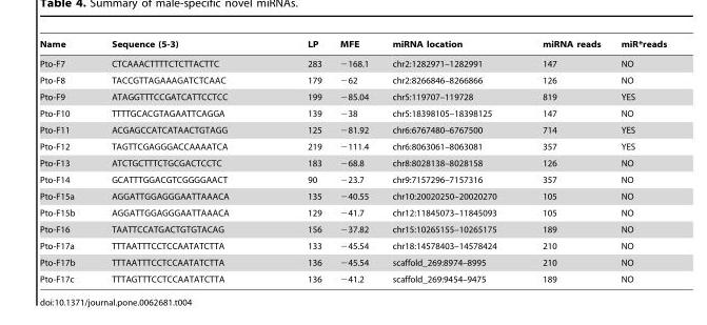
<table><thead><tr><td>Name</td><td>Sequence (5-3)</td><td>LP</td><td>MFE</td><td>miRNA location</td><td>miRNA reads</td><td>miR*reads</td></tr></thead><tbody><tr><td>Pto-F7</td><td>CTCAAACTTTTCTCTTACTTC</td><td>283</td><td>−168.1</td><td>chr2:1282971–1282991</td><td>147</td><td>NO</td></tr><tr><td>Pto-F8</td><td>TACCGTTAGAAAGATCTCAAC</td><td>179</td><td>−62</td><td>chr2:8266846–8266866</td><td>126</td><td>NO</td></tr><tr><td>Pto-F9</td><td>ATAGGTTTCCGATCATTCCTCC</td><td>199</td><td>−85.04</td><td>chr5:119707–119728</td><td>819</td><td>YES</td></tr><tr><td>Pto-F10</td><td>TTTTGCACGTAGAATTCAGGA</td><td>139</td><td>−38</td><td>chr5:18398105–18398125</td><td>147</td><td>NO</td></tr><tr><td>Pto-F11</td><td>ACGAGCCATCATAACTGTAGG</td><td>125</td><td>−81.92</td><td>chr6:6767480–6767500</td><td>714</td><td>YES</td></tr><tr><td>Pto-F12</td><td>TAGTTCGAGGGACCAAAATCA</td><td>219</td><td>−111.4</td><td>chr6:8063061–8063081</td><td>357</td><td>YES</td></tr><tr><td>Pto-F13</td><td>ATCTGCTTTCTGCGACTCCTC</td><td>183</td><td>−68.8</td><td>chr8:8028138–8028158</td><td>126</td><td>NO</td></tr><tr><td>Pto-F14</td><td>GCATTTGGACGTCGGGGAACT</td><td>90</td><td>−23.7</td><td>chr9:7157296–7157316</td><td>357</td><td>NO</td></tr><tr><td>Pto-F15a</td><td>AGGATTGGAGGGAATTAAACA</td><td>135</td><td>−40.55</td><td>chr10:20020250–20020270</td><td>105</td><td>NO</td></tr><tr><td>Pto-F15b</td><td>AGGATTGGAGGGAATTAAACA</td><td>129</td><td>−41.7</td><td>chr12:11845073–11845093</td><td>105</td><td>NO</td></tr><tr><td>Pto-F16</td><td>TAATTCCATGACTGTGTACAG</td><td>156</td><td>−37.82</td><td>chr15:10265155–10265175</td><td>189</td><td>NO</td></tr><tr><td>Pto-F17a</td><td>TTTAATTTCCTCCAATATCTTA</td><td>133</td><td>−45.54</td><td>chr18:14578403–14578424</td><td>210</td><td>NO</td></tr><tr><td>Pto-F17b</td><td>TTTAATTTCCTCCAATATCTTA</td><td>136</td><td>−45.54</td><td>scaffold_269:8974–8995</td><td>210</td><td>NO</td></tr><tr><td>Pto-F17c</td><td>TTTAGTTTCCTCCAATATCTTA</td><td>136</td><td>−41.2</td><td>scaffold_269:9454–9475</td><td>189</td><td>NO</td></tr></tbody></table>